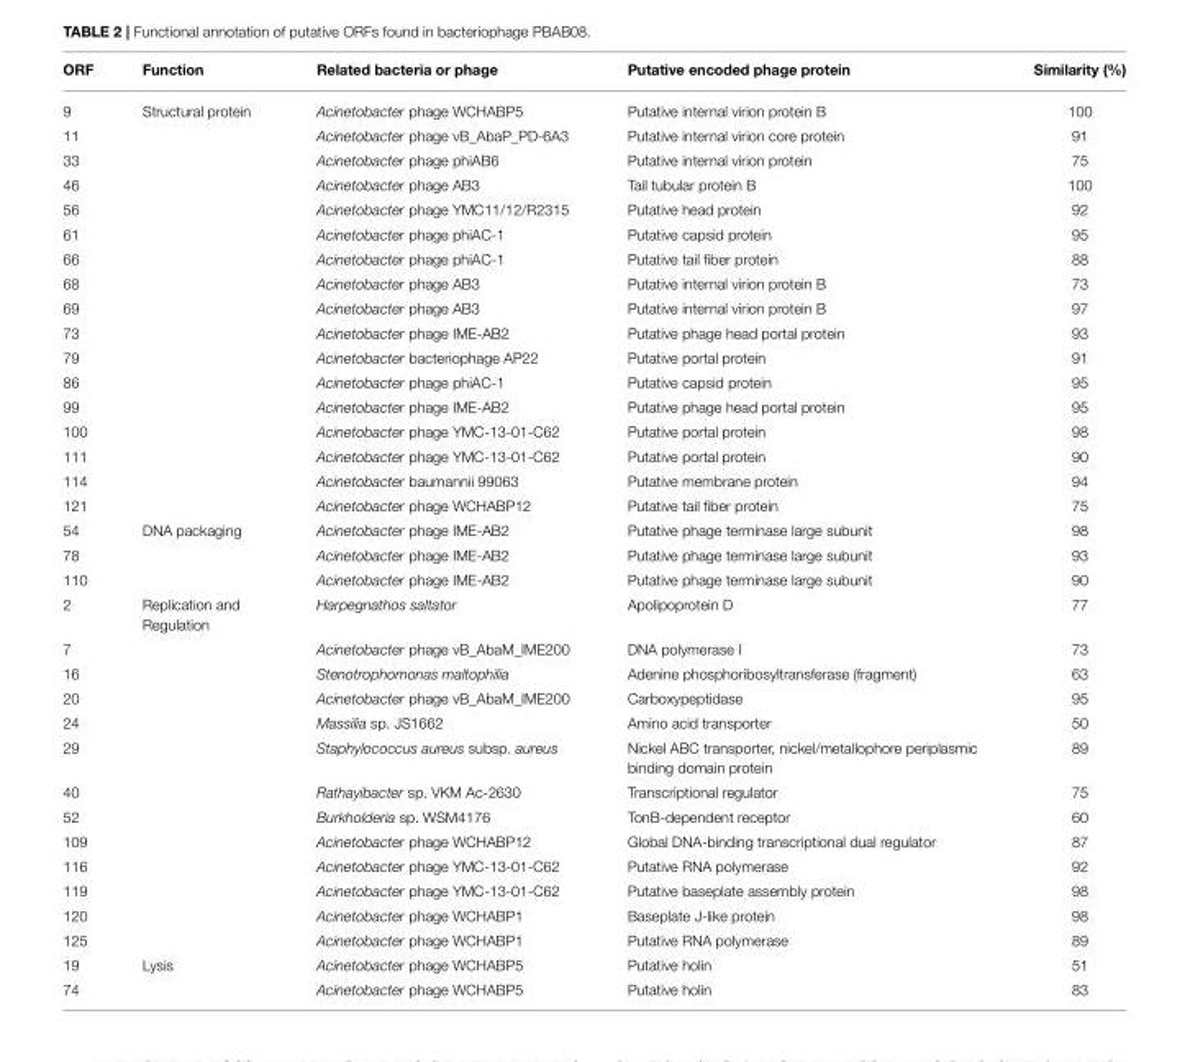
<table><thead><tr><td>ORF</td><td>Function</td><td>Related bacteria or phage</td><td>Putative encoded phage protein</td><td>Similarity (%)</td></tr></thead><tbody><tr><td>9</td><td>Structural protein</td><td>Acinetobacter phage WCHABP5</td><td>Putative internal virion protein B</td><td>100</td></tr><tr><td>11</td><td></td><td>Acinetobacter phage vB_AbaP_PD-6A3</td><td>Putative internal virion core protein</td><td>91</td></tr><tr><td>33</td><td></td><td>Acinetobacter phage phiAB6</td><td>Putative internal virion protein</td><td>75</td></tr><tr><td>46</td><td></td><td>Acinetobacter phage AB3</td><td>Tail tubular protein B</td><td>100</td></tr><tr><td>56</td><td></td><td>Acinetobacter phage YMC11/12/R2315</td><td>Putative head protein</td><td>92</td></tr><tr><td>61</td><td></td><td>Acinetobacter phage phiAC-1</td><td>Putative capsid protein</td><td>95</td></tr><tr><td>66</td><td></td><td>Acinetobacter phage phiAC-1</td><td>Putative tail fiber protein</td><td>88</td></tr><tr><td>68</td><td></td><td>Acinetobacter phage AB3</td><td>Putative internal virion protein B</td><td>73</td></tr><tr><td>69</td><td></td><td>Acinetobacter phage AB3</td><td>Putative internal virion protein B</td><td>97</td></tr><tr><td>73</td><td></td><td>Acinetobacter phage IME-AB2</td><td>Putative phage head portal protein</td><td>93</td></tr><tr><td>79</td><td></td><td>Acinetobacter bacteriophage AP22</td><td>Putative portal protein</td><td>91</td></tr><tr><td>86</td><td></td><td>Acinetobacter phage phiAC-1</td><td>Putative capsid protein</td><td>95</td></tr><tr><td>99</td><td></td><td>Acinetobacter phage IME-AB2</td><td>Putative phage head portal protein</td><td>95</td></tr><tr><td>100</td><td></td><td>Acinetobacter phage YMC-13-01-C62</td><td>Putative portal protein</td><td>98</td></tr><tr><td>111</td><td></td><td>Acinetobacter phage YMC-13-01-C62</td><td>Putative portal protein</td><td>90</td></tr><tr><td>114</td><td></td><td>Acinetobacter baumannii 99063</td><td>Putative membrane protein</td><td>94</td></tr><tr><td>121</td><td></td><td>Acinetobacter phage WCHABP12</td><td>Putative tail fiber protein</td><td>75</td></tr><tr><td>54</td><td>DNA packaging</td><td>Acinetobacter phage IME-AB2</td><td>Putative phage terminase large subunit</td><td>98</td></tr><tr><td>78</td><td></td><td>Acinetobacter phage IME-AB2</td><td>Putative phage terminase large subunit</td><td>93</td></tr><tr><td>110</td><td></td><td>Acinetobacter phage IME-AB2</td><td>Putative phage terminase large subunit</td><td>90</td></tr><tr><td>2</td><td>Replication and Regulation</td><td>Harpegnathos saltator</td><td>Apolipoprotein D</td><td>77</td></tr><tr><td>7</td><td></td><td>Acinetobacter phage vB_AbaM_IME200</td><td>DNA polymerase I</td><td>73</td></tr><tr><td>16</td><td></td><td>Stenotrophomonas maltophilia</td><td>Adenine phosphoribosyltransferase (fragment)</td><td>63</td></tr><tr><td>20</td><td></td><td>Acinetobacter phage vB_AbaM_IME200</td><td>Carboxypeptidase</td><td>95</td></tr><tr><td>24</td><td></td><td>Massilia sp. JS1662</td><td>Amino acid transporter</td><td>50</td></tr><tr><td>29</td><td></td><td>Staphylococcus aureus subsp. aureus</td><td>Nickel ABC transporter, nickel/metallophore periplasmic binding domain protein</td><td>89</td></tr><tr><td>40</td><td></td><td>Rathayibacter sp. VKM Ac-2630</td><td>Transcriptional regulator</td><td>75</td></tr><tr><td>52</td><td></td><td>Burkholderia sp. WSM4176</td><td>TonB-dependent receptor</td><td>60</td></tr><tr><td>109</td><td></td><td>Acinetobacter phage WCHABP12</td><td>Global DNA-binding transcriptional dual regulator</td><td>87</td></tr><tr><td>116</td><td></td><td>Acinetobacter phage YMC-13-01-C62</td><td>Putative RNA polymerase</td><td>92</td></tr><tr><td>119</td><td></td><td>Acinetobacter phage YMC-13-01-C62</td><td>Putative baseplate assembly protein</td><td>98</td></tr><tr><td>120</td><td></td><td>Acinetobacter phage WCHABP1</td><td>Baseplate J-like protein</td><td>98</td></tr><tr><td>125</td><td></td><td>Acinetobacter phage WCHABP1</td><td>Putative RNA polymerase</td><td>89</td></tr><tr><td>19</td><td>Lysis</td><td>Acinetobacter phage WCHABP5</td><td>Putative holin</td><td>51</td></tr><tr><td>74</td><td></td><td>Acinetobacter phage WCHABP5</td><td>Putative holin</td><td>83</td></tr></tbody></table>